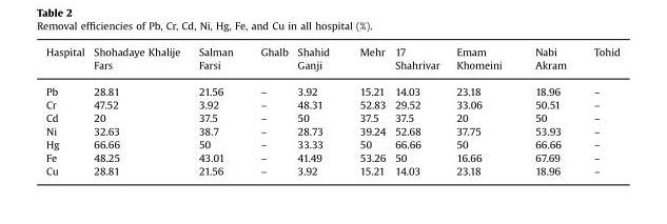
<table><thead><tr><td>Haspital</td><td>Shohadaye Khalije Fars</td><td>Salman Farsi</td><td>Ghalb</td><td>Shahid Ganji</td><td>Mehr</td><td>17 Shahrivar</td><td>Emam Khomeini</td><td>Nabi Akram</td><td>Tohid</td></tr></thead><tbody><tr><td>Pb</td><td>28.81</td><td>21.56</td><td>–</td><td>3.92</td><td>15.21</td><td>14.03</td><td>23.18</td><td>18.96</td><td>–</td></tr><tr><td>Cr</td><td>47.52</td><td>3.92</td><td>–</td><td>48.31</td><td>52.83</td><td>29.52</td><td>33.06</td><td>50.51</td><td>–</td></tr><tr><td>Cd</td><td>20</td><td>37.5</td><td>–</td><td>50</td><td>37.5</td><td>37.5</td><td>20</td><td>50</td><td>–</td></tr><tr><td>Ni</td><td>32.63</td><td>38.7</td><td>–</td><td>28.73</td><td>39.24</td><td>52.68</td><td>37.75</td><td>53.93</td><td>–</td></tr><tr><td>Hg</td><td>66.66</td><td>50</td><td>–</td><td>33.33</td><td>50</td><td>66.66</td><td>50</td><td>66.66</td><td>–</td></tr><tr><td>Fe</td><td>48.25</td><td>43.01</td><td>–</td><td>41.49</td><td>53.26</td><td>50</td><td>16.66</td><td>67.69</td><td>–</td></tr><tr><td>Cu</td><td>28.81</td><td>21.56</td><td>–</td><td>3.92</td><td>15.21</td><td>14.03</td><td>23.18</td><td>18.96</td><td>–</td></tr></tbody></table>